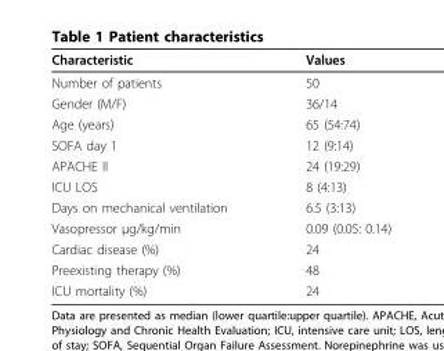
<table><thead><tr><td>Characteristic</td><td>Values</td></tr></thead><tbody><tr><td>Number of patients</td><td>50</td></tr><tr><td>Gender (M/F)</td><td>36/14</td></tr><tr><td>Age (years)</td><td>65 (54:74)</td></tr><tr><td>SOFA day 1</td><td>12 (9:14)</td></tr><tr><td>APACHE II</td><td>24 (19:29)</td></tr><tr><td>ICU LOS</td><td>8 (4:13)</td></tr><tr><td>Days on mechanical ventilation</td><td>6.5 (3:13)</td></tr><tr><td>Vasopressor μg/kg/min</td><td>0.09 (0.05: 0.14)</td></tr><tr><td>Cardiac disease (%)</td><td>24</td></tr><tr><td>Preexisting therapy (%)</td><td>48</td></tr><tr><td>ICU mortality (%)</td><td>24</td></tr></tbody></table>